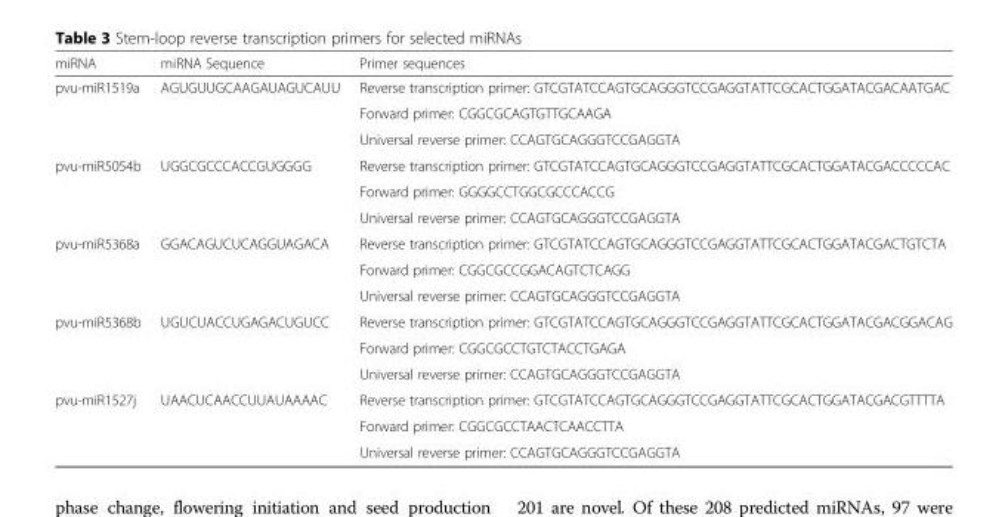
<table><thead><tr><td>miRNA</td><td>miRNA Sequence</td><td>Primer sequences</td></tr></thead><tbody><tr><td rowspan="3">pvu-miR1519a</td><td rowspan="3">AGUGUUGCAAGAUAGUCAUU</td><td>Reverse transcription primer: GTCGTATCCAGTGCAGGGTCCGAGGTATTCGCACTGGATACGACAATGAC</td></tr><tr><td>Forward primer: CGGCGCAGTGTTGCAAGA</td></tr><tr><td>Universal reverse primer: CCAGTGCAGGGTCCGAGGTA</td></tr><tr><td rowspan="3">pvu-miR5054b</td><td rowspan="3">UGGCGCCCACCGUGGGG</td><td>Reverse transcription primer: GTCGTATCCAGTGCAGGGTCCGAGGTATTCGCACTGGATACGACCCCCAC</td></tr><tr><td>Forward primer: GGGGCCTGGCGCCCACCG</td></tr><tr><td>Universal reverse primer: CCAGTGCAGGGTCCGAGGTA</td></tr><tr><td rowspan="3">pvu-miR5368a</td><td rowspan="3">GGACAGUCUCAGGUAGACA</td><td>Reverse transcription primer: GTCGTATCCAGTGCAGGGTCCGAGGTATTCGCACTGGATACGACTGTCTA</td></tr><tr><td>Forward primer: CGGCGCCGGACAGTCTCAGG</td></tr><tr><td>Universal reverse primer: CCAGTGCAGGGTCCGAGGTA</td></tr><tr><td rowspan="3">pvu-miR5368b</td><td rowspan="3">UGUCUACCUGAGACUGUCC</td><td>Reverse transcription primer: GTCGTATCCAGTGCAGGGTCCGAGGTATTCGCACTGGATACGACGGACAG</td></tr><tr><td>Forward primer: CGGCGCCTGTCTACCTGAGA</td></tr><tr><td>Universal reverse primer: CCAGTGCAGGGTCCGAGGTA</td></tr><tr><td rowspan="3">pvu-miR1527j</td><td rowspan="3">UAACUCAACCUUAUAAAAC</td><td>Reverse transcription primer: GTCGTATCCAGTGCAGGGTCCGAGGTATTCGCACTGGATACGACGTTTTA</td></tr><tr><td>Forward primer: CGGCGCCTAACTCAACCTTA</td></tr><tr><td>Universal reverse primer: CCAGTGCAGGGTCCGAGGTA</td></tr></tbody></table>